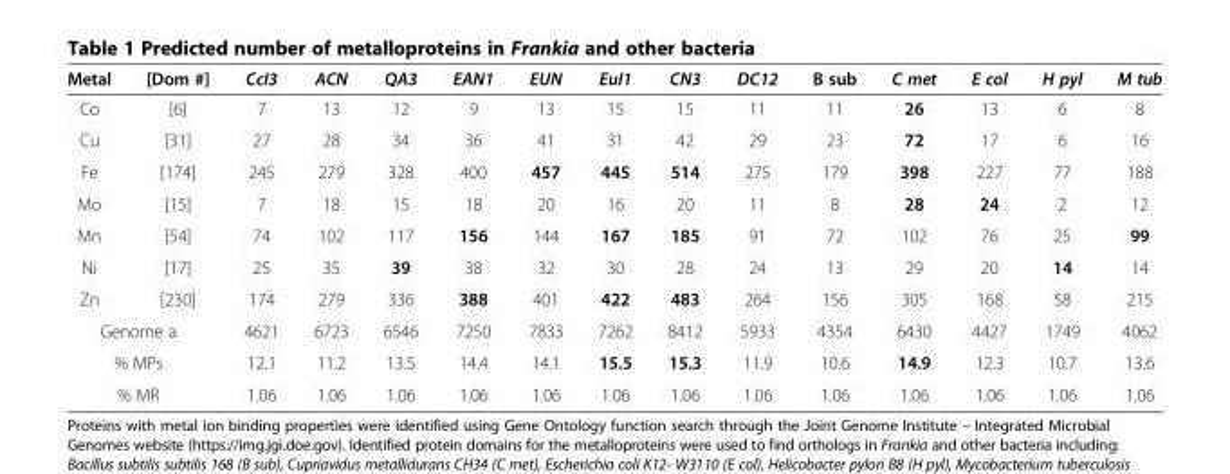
<table><thead><tr><td>Metal</td><td>[Dom #]</td><td>CcI3</td><td>ACN</td><td>QA3</td><td>EAN1</td><td>EUN</td><td>EuI1</td><td>CN3</td><td>DC12</td><td>B sub</td><td>C met</td><td>E col</td><td>H pyl</td><td>M tub</td></tr></thead><tbody><tr><td>Co</td><td>[6]</td><td>7</td><td>13</td><td>12</td><td>9</td><td>13</td><td>15</td><td>15</td><td>11</td><td>11</td><td>26</td><td>13</td><td>6</td><td>8</td></tr><tr><td>Cu</td><td>[31]</td><td>27</td><td>28</td><td>34</td><td>36</td><td>41</td><td>31</td><td>42</td><td>29</td><td>23</td><td>72</td><td>17</td><td>6</td><td>16</td></tr><tr><td>Fe</td><td>[174]</td><td>245</td><td>279</td><td>328</td><td>400</td><td>457</td><td>445</td><td>514</td><td>275</td><td>179</td><td>398</td><td>227</td><td>77</td><td>188</td></tr><tr><td>Mo</td><td>[15]</td><td>7</td><td>18</td><td>15</td><td>18</td><td>20</td><td>16</td><td>20</td><td>11</td><td>8</td><td>28</td><td>24</td><td>2</td><td>12</td></tr><tr><td>Mn</td><td>[54]</td><td>74</td><td>102</td><td>117</td><td>156</td><td>144</td><td>167</td><td>185</td><td>91</td><td>72</td><td>102</td><td>76</td><td>25</td><td>99</td></tr><tr><td>Ni</td><td>[17]</td><td>25</td><td>35</td><td>39</td><td>38</td><td>32</td><td>30</td><td>28</td><td>24</td><td>13</td><td>29</td><td>20</td><td>14</td><td>14</td></tr><tr><td>Zn</td><td>[230]</td><td>174</td><td>279</td><td>336</td><td>388</td><td>401</td><td>422</td><td>483</td><td>264</td><td>156</td><td>305</td><td>168</td><td>58</td><td>215</td></tr><tr><td colspan="2">Genome a</td><td>4621</td><td>6723</td><td>6546</td><td>7250</td><td>7833</td><td>7262</td><td>8412</td><td>5933</td><td>4354</td><td>6430</td><td>4427</td><td>1749</td><td>4062</td></tr><tr><td colspan="2">% MPs</td><td>12.1</td><td>11.2</td><td>13.5</td><td>14.4</td><td>14.1</td><td>15.5</td><td>15.3</td><td>11.9</td><td>10.6</td><td>14.9</td><td>12.3</td><td>10.7</td><td>13.6</td></tr><tr><td colspan="2">% MR</td><td>1.06</td><td>1.06</td><td>1.06</td><td>1.06</td><td>1.06</td><td>1.06</td><td>1.06</td><td>1.06</td><td>1.06</td><td>1.06</td><td>1.06</td><td>1.06</td><td>1.06</td></tr></tbody></table>